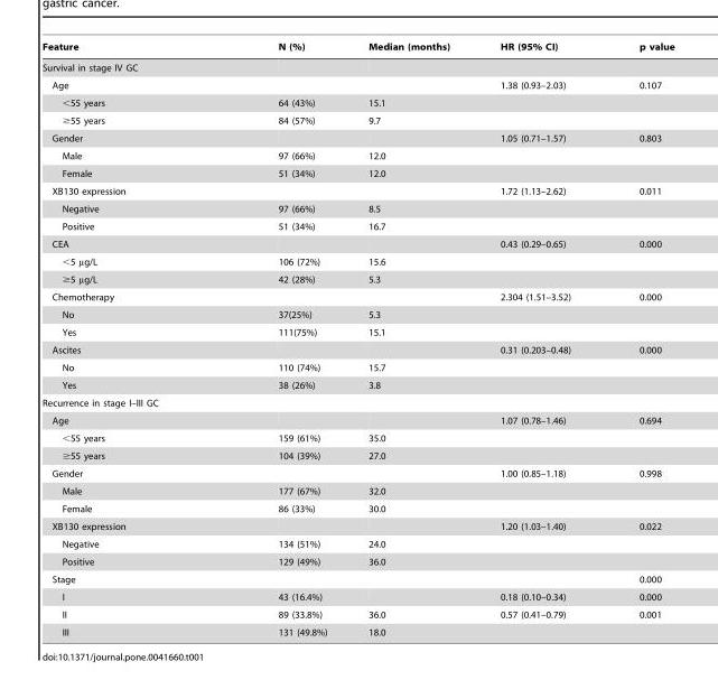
<table><thead><tr><td>Feature</td><td>N (%)</td><td>Median (months)</td><td>HR (95% CI)</td><td>p value</td></tr></thead><tbody><tr><td colspan="5">Survival in stage IV GC</td></tr><tr><td>Age</td><td></td><td></td><td>1.38 (0.93–2.03)</td><td>0.107</td></tr><tr><td>&lt;55 years</td><td>64 (43%)</td><td>15.1</td><td></td><td></td></tr><tr><td>≥55 years</td><td>84 (57%)</td><td>9.7</td><td></td><td></td></tr><tr><td>Gender</td><td></td><td></td><td>1.05 (0.71–1.57)</td><td>0.803</td></tr><tr><td>Male</td><td>97 (66%)</td><td>12.0</td><td></td><td></td></tr><tr><td>Female</td><td>51 (34%)</td><td>12.0</td><td></td><td></td></tr><tr><td>XB130 expression</td><td></td><td></td><td>1.72 (1.13–2.62)</td><td>0.011</td></tr><tr><td>Negative</td><td>97 (66%)</td><td>8.5</td><td></td><td></td></tr><tr><td>Positive</td><td>51 (34%)</td><td>16.7</td><td></td><td></td></tr><tr><td>CEA</td><td></td><td></td><td>0.43 (0.29–0.65)</td><td>0.000</td></tr><tr><td>&lt;5 µg/L</td><td>106 (72%)</td><td>15.6</td><td></td><td></td></tr><tr><td>≥5 µg/L</td><td>42 (28%)</td><td>5.3</td><td></td><td></td></tr><tr><td>Chemotherapy</td><td></td><td></td><td>2.304 (1.51–3.52)</td><td>0.000</td></tr><tr><td>No</td><td>37(25%)</td><td>5.3</td><td></td><td></td></tr><tr><td>Yes</td><td>111(75%)</td><td>15.1</td><td></td><td></td></tr><tr><td>Ascites</td><td></td><td></td><td>0.31 (0.203–0.48)</td><td>0.000</td></tr><tr><td>No</td><td>110 (74%)</td><td>15.7</td><td></td><td></td></tr><tr><td>Yes</td><td>38 (26%)</td><td>3.8</td><td></td><td></td></tr><tr><td colspan="5">Recurrence in stage I–III GC</td></tr><tr><td>Age</td><td></td><td></td><td>1.07 (0.78–1.46)</td><td>0.694</td></tr><tr><td>&lt;55 years</td><td>159 (61%)</td><td>35.0</td><td></td><td></td></tr><tr><td>≥55 years</td><td>104 (39%)</td><td>27.0</td><td></td><td></td></tr><tr><td>Gender</td><td></td><td></td><td>1.00 (0.85–1.18)</td><td>0.998</td></tr><tr><td>Male</td><td>177 (67%)</td><td>32.0</td><td></td><td></td></tr><tr><td>Female</td><td>86 (33%)</td><td>30.0</td><td></td><td></td></tr><tr><td>XB130 expression</td><td></td><td></td><td>1.20 (1.03–1.40)</td><td>0.022</td></tr><tr><td>Negative</td><td>134 (51%)</td><td>24.0</td><td></td><td></td></tr><tr><td>Positive</td><td>129 (49%)</td><td>36.0</td><td></td><td></td></tr><tr><td>Stage</td><td></td><td></td><td></td><td>0.000</td></tr><tr><td>I</td><td>43 (16.4%)</td><td></td><td>0.18 (0.10–0.34)</td><td>0.000</td></tr><tr><td>II</td><td>89 (33.8%)</td><td>36.0</td><td>0.57 (0.41–0.79)</td><td>0.001</td></tr><tr><td>III</td><td>131 (49.8%)</td><td>18.0</td><td></td><td></td></tr></tbody></table>